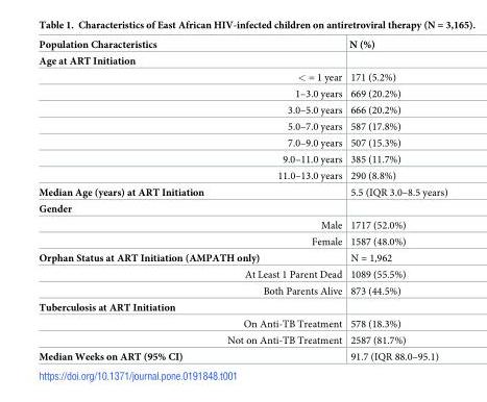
<table><thead><tr><td>Population Characteristics</td><td>N (%)</td></tr></thead><tbody><tr><td colspan="2">Age at ART Initiation</td></tr><tr><td>&lt; = 1 year</td><td>171 (5.2%)</td></tr><tr><td>1–3.0 years</td><td>669 (20.2%)</td></tr><tr><td>3.0–5.0 years</td><td>666 (20.2%)</td></tr><tr><td>5.0–7.0 years</td><td>587 (17.8%)</td></tr><tr><td>7.0–9.0 years</td><td>507 (15.3%)</td></tr><tr><td>9.0–11.0 years</td><td>385 (11.7%)</td></tr><tr><td>11.0–13.0 years</td><td>290 (8.8%)</td></tr><tr><td>Median Age (years) at ART Initiation</td><td>5.5 (IQR 3.0–8.5 years)</td></tr><tr><td colspan="2">Gender</td></tr><tr><td>Male</td><td>1717 (52.0%)</td></tr><tr><td>Female</td><td>1587 (48.0%)</td></tr><tr><td>Orphan Status at ART Initiation (AMPATH only)</td><td>N = 1,962</td></tr><tr><td>At Least 1 Parent Dead</td><td>1089 (55.5%)</td></tr><tr><td>Both Parents Alive</td><td>873 (44.5%)</td></tr><tr><td colspan="2">Tuberculosis at ART Initiation</td></tr><tr><td>On Anti-TB Treatment</td><td>578 (18.3%)</td></tr><tr><td>Not on Anti-TB Treatment</td><td>2587 (81.7%)</td></tr><tr><td>Median Weeks on ART (95% CI)</td><td>91.7 (IQR 88.0–95.1)</td></tr></tbody></table>